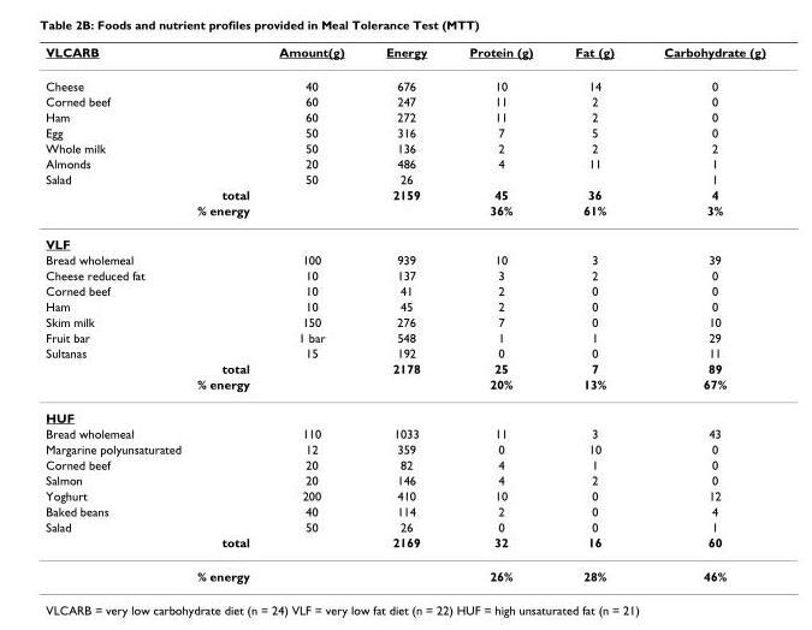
<table><thead><tr><td>VLCARB</td><td>Amount(g)</td><td>Energy</td><td>Protein (g)</td><td>Fat (g)</td><td>Carbohydrate (g)</td></tr></thead><tbody><tr><td>Cheese</td><td>40</td><td>676</td><td>10</td><td>14</td><td>0</td></tr><tr><td>Corned beef</td><td>60</td><td>247</td><td>11</td><td>2</td><td>0</td></tr><tr><td>Ham</td><td>60</td><td>272</td><td>11</td><td>2</td><td>0</td></tr><tr><td>Egg</td><td>50</td><td>316</td><td>7</td><td>5</td><td>0</td></tr><tr><td>Whole milk</td><td>50</td><td>136</td><td>2</td><td>2</td><td>2</td></tr><tr><td>Almonds</td><td>20</td><td>486</td><td>4</td><td>11</td><td>1</td></tr><tr><td>Salad</td><td>50</td><td>26</td><td></td><td></td><td>1</td></tr><tr><td>total</td><td></td><td>2159</td><td>45</td><td>36</td><td>4</td></tr><tr><td>% energy</td><td></td><td></td><td>36%</td><td>61%</td><td>3%</td></tr><tr><td colspan="6">VLF</td></tr><tr><td>Bread wholemeal</td><td>100</td><td>939</td><td>10</td><td>3</td><td>39</td></tr><tr><td>Cheese reduced fat</td><td>10</td><td>137</td><td>3</td><td>2</td><td>0</td></tr><tr><td>Corned beef</td><td>10</td><td>41</td><td>2</td><td>0</td><td>0</td></tr><tr><td>Ham</td><td>10</td><td>45</td><td>2</td><td>0</td><td>0</td></tr><tr><td>Skim milk</td><td>150</td><td>276</td><td>7</td><td>0</td><td>10</td></tr><tr><td>Fruit bar</td><td>1 bar</td><td>548</td><td>1</td><td>1</td><td>29</td></tr><tr><td>Sultanas</td><td>15</td><td>192</td><td>0</td><td>0</td><td>11</td></tr><tr><td>total</td><td></td><td>2178</td><td>25</td><td>7</td><td>89</td></tr><tr><td>% energy</td><td></td><td></td><td>20%</td><td>13%</td><td>67%</td></tr><tr><td colspan="6">HUF</td></tr><tr><td>Bread wholemeal</td><td>110</td><td>1033</td><td>11</td><td>3</td><td>43</td></tr><tr><td>Margarine polyunsaturated</td><td>12</td><td>359</td><td>0</td><td>10</td><td>0</td></tr><tr><td>Corned beef</td><td>20</td><td>82</td><td>4</td><td>1</td><td>0</td></tr><tr><td>Salmon</td><td>20</td><td>146</td><td>4</td><td>2</td><td>0</td></tr><tr><td>Yoghurt</td><td>200</td><td>410</td><td>10</td><td>0</td><td>12</td></tr><tr><td>Baked beans</td><td>40</td><td>114</td><td>2</td><td>0</td><td>4</td></tr><tr><td>Salad</td><td>50</td><td>26</td><td>0</td><td>0</td><td>1</td></tr><tr><td>total</td><td></td><td>2169</td><td>32</td><td>16</td><td>60</td></tr><tr><td>% energy</td><td></td><td></td><td>26%</td><td>28%</td><td>46%</td></tr></tbody></table>